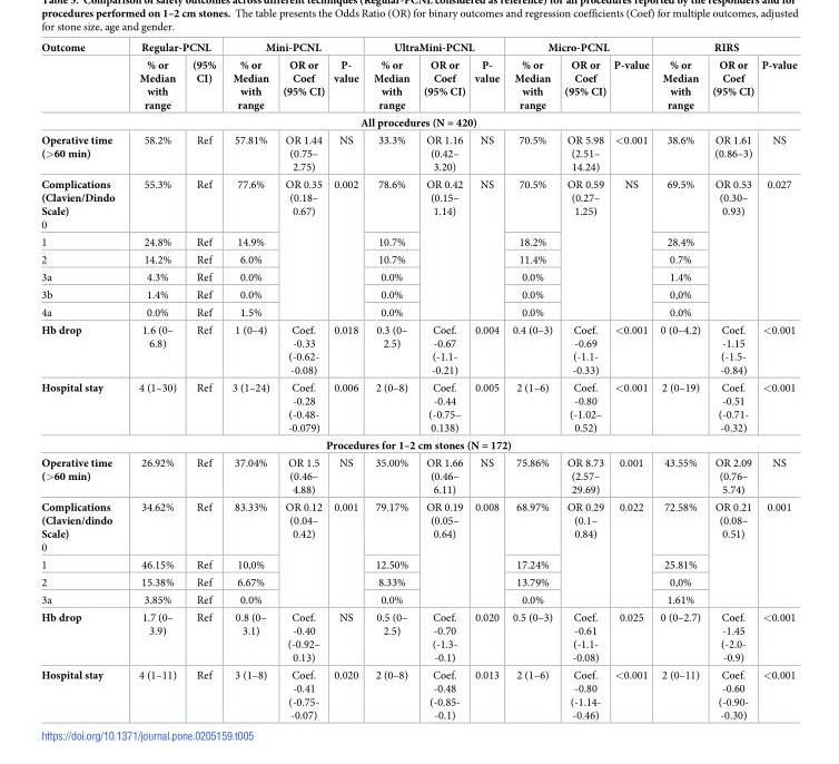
<table><thead><tr><td rowspan="2">Outcome</td><td colspan="2">Regular-PCNL</td><td colspan="3">Mini-PCNL</td><td colspan="3">UltraMini-PCNL</td><td colspan="3">Micro-PCNL</td><td colspan="3">RIRS</td></tr><tr><td>% or Median with range</td><td>(95% CI)</td><td>% or Median with range</td><td>OR or Coef (95% CI)</td><td>P- value</td><td>% or Median with range</td><td>OR or Coef (95% CI)</td><td>P- value</td><td>% or Median with range</td><td>OR or Coef (95% CI)</td><td>P-value</td><td>% or Median with range</td><td>OR or Coef (95% CI)</td><td>P-value</td></tr></thead><tbody><tr><td colspan="15">All procedures (N = 420)</td></tr><tr><td>Operative time (&gt;60 min)</td><td>58.2%</td><td>Ref</td><td>57.81%</td><td>OR 1.44 (0.75– 2.75)</td><td>NS</td><td>33.3%</td><td>OR 1.16 (0.42– 3.20)</td><td>NS</td><td>70.5%</td><td>OR 5.98 (2.51– 14.24)</td><td>&lt;0.001</td><td>38.6%</td><td>OR 1.61 (0.86–3)</td><td>NS</td></tr><tr><td>Complications (Clavien/Dindo Scale) 0</td><td>55.3%</td><td>Ref</td><td>77.6%</td><td rowspan="6">OR 0.35 (0.18– 0.67)</td><td rowspan="6">0.002</td><td>78.6%</td><td rowspan="6">OR 0.42 (0.15– 1.14)</td><td rowspan="6">NS</td><td>70.5%</td><td rowspan="6">OR 0.59 (0.27– 1.25)</td><td rowspan="6">NS</td><td>69.5%</td><td rowspan="6">OR 0.53 (0.30– 0.93)</td><td rowspan="6">0.027</td></tr><tr><td>1</td><td>24.8%</td><td>Ref</td><td>14.9%</td><td>10.7%</td><td>18.2%</td><td>28.4%</td></tr><tr><td>2</td><td>14.2%</td><td>Ref</td><td>6.0%</td><td>10.7%</td><td>11.4%</td><td>0.7%</td></tr><tr><td>3a</td><td>4.3%</td><td>Ref</td><td>0.0%</td><td>0.0%</td><td>0.0%</td><td>1.4%</td></tr><tr><td>3b</td><td>1.4%</td><td>Ref</td><td>0.0%</td><td>0.0%</td><td>0.0%</td><td>0,0%</td></tr><tr><td>4a</td><td>0.0%</td><td>Ref</td><td>1.5%</td><td>0.0%</td><td>0.0%</td><td>0.0%</td></tr><tr><td>Hb drop</td><td>1.6 (0– 6.8)</td><td>Ref</td><td>1 (0–4)</td><td>Coef. -0.33 (-0.62- -0.08)</td><td>0.018</td><td>0.3 (0– 2.5)</td><td>Coef. -0.67 (-1.1- -0.21)</td><td>0.004</td><td>0.4 (0–3)</td><td>Coef. -0.69 (-1.1- -0.33)</td><td>&lt;0.001</td><td>0 (0–4.2)</td><td>Coef. -1.15 (-1.5- -0.84)</td><td>&lt;0.001</td></tr><tr><td>Hospital stay</td><td>4 (1–30)</td><td>Ref</td><td>3 (1–24)</td><td>Coef. -0.28 (-0.48- -0.079)</td><td>0.006</td><td>2 (0–8)</td><td>Coef. -0.44 (-0.75– 0.138)</td><td>0.005</td><td>2 (1–6)</td><td>Coef. -0.80 (-1.02– 0.52)</td><td>&lt;0.001</td><td>2 (0–19)</td><td>Coef. -0.51 (-0.71- -0.32)</td><td>&lt;0.001</td></tr><tr><td colspan="15">Procedures for 1–2 cm stones (N = 172)</td></tr><tr><td>Operative time (&gt;60 min)</td><td>26.92%</td><td>Ref</td><td>37.04%</td><td>OR 1.5 (0.46– 4.88)</td><td>NS</td><td>35.00%</td><td>OR 1.66 (0.46– 6.11)</td><td>NS</td><td>75.86%</td><td>OR 8.73 (2.57– 29.69)</td><td>0.001</td><td>43.55%</td><td>OR 2.09 (0.76– 5.74)</td><td>NS</td></tr><tr><td>Complications (Clavien/dindo Scale) 0</td><td>34.62%</td><td>Ref</td><td>83.33%</td><td rowspan="4">OR 0.12 (0.04– 0.42)</td><td rowspan="4">0.001</td><td>79.17%</td><td rowspan="4">OR 0.19 (0.05– 0.64)</td><td rowspan="4">0.008</td><td>68.97%</td><td rowspan="4">OR 0.29 (0.1– 0.84)</td><td rowspan="4">0.022</td><td>72.58%</td><td rowspan="4">OR 0.21 (0.08– 0.51)</td><td rowspan="4">0.001</td></tr><tr><td>1</td><td>46.15%</td><td>Ref</td><td>10,0%</td><td>12.50%</td><td>17.24%</td><td>25.81%</td></tr><tr><td>2</td><td>15.38%</td><td>Ref</td><td>6.67%</td><td>8.33%</td><td>13.79%</td><td>0,0%</td></tr><tr><td>3a</td><td>3.85%</td><td>Ref</td><td>0.0%</td><td>0.0%</td><td>0.0%</td><td>1.61%</td></tr><tr><td>Hb drop</td><td>1.7 (0– 3.9)</td><td>Ref</td><td>0.8 (0– 3.1)</td><td>Coef. -0.40 (-0.92– 0.13)</td><td>NS</td><td>0.5 (0– 2.5)</td><td>Coef. -0.70 (-1.3- -0.1)</td><td>0.020</td><td>0.5 (0–3)</td><td>Coef. -0.61 (-1.1- -0.08)</td><td>0.025</td><td>0 (0–2.7)</td><td>Coef. -1.45 (-2.0- -0.9)</td><td>&lt;0.001</td></tr><tr><td>Hospital stay</td><td>4 (1–11)</td><td>Ref</td><td>3 (1–8)</td><td>Coef. -0.41 (-0.75- -0.07)</td><td>0.020</td><td>2 (0–8)</td><td>Coef. -0.48 (-0.85- -0.1)</td><td>0.013</td><td>2 (1–6)</td><td>Coef. -0.80 (-1.14- -0.46)</td><td>&lt;0.001</td><td>2 (0–11)</td><td>Coef. -0.60 (-0.90- -0.30)</td><td>&lt;0.001</td></tr></tbody></table>